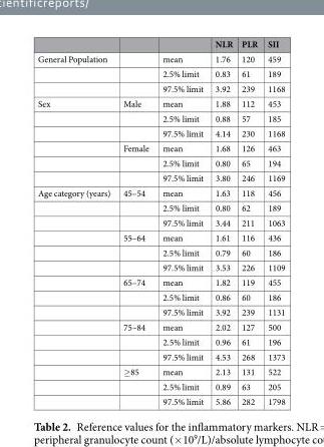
<table><thead><tr><td></td><td></td><td></td><td>NLR</td><td>PLR</td><td>SII</td></tr></thead><tbody><tr><td rowspan="3">General Population</td><td></td><td>mean</td><td>1.76</td><td>120</td><td>459</td></tr><tr><td></td><td>2.5% limit</td><td>0.83</td><td>61</td><td>189</td></tr><tr><td></td><td>97.5% limit</td><td>3.92</td><td>239</td><td>1168</td></tr><tr><td rowspan="6">Sex</td><td>Male</td><td>mean</td><td>1.88</td><td>112</td><td>453</td></tr><tr><td></td><td>2.5% limit</td><td>0.88</td><td>57</td><td>185</td></tr><tr><td></td><td>97.5% limit</td><td>4.14</td><td>230</td><td>1168</td></tr><tr><td>Female</td><td>mean</td><td>1.68</td><td>126</td><td>463</td></tr><tr><td></td><td>2.5% limit</td><td>0.80</td><td>65</td><td>194</td></tr><tr><td></td><td>97.5% limit</td><td>3.80</td><td>246</td><td>1169</td></tr><tr><td rowspan="15">Age category (years)</td><td>45–54</td><td>mean</td><td>1.63</td><td>118</td><td>456</td></tr><tr><td></td><td>2.5% limit</td><td>0.80</td><td>62</td><td>189</td></tr><tr><td></td><td>97.5% limit</td><td>3.44</td><td>211</td><td>1063</td></tr><tr><td>55–64</td><td>mean</td><td>1.61</td><td>116</td><td>436</td></tr><tr><td></td><td>2.5% limit</td><td>0.79</td><td>60</td><td>186</td></tr><tr><td></td><td>97.5% limit</td><td>3.53</td><td>226</td><td>1109</td></tr><tr><td>65–74</td><td>mean</td><td>1.82</td><td>119</td><td>455</td></tr><tr><td></td><td>2.5% limit</td><td>0.86</td><td>60</td><td>186</td></tr><tr><td></td><td>97.5% limit</td><td>3.92</td><td>239</td><td>1131</td></tr><tr><td>75–84</td><td>mean</td><td>2.02</td><td>127</td><td>500</td></tr><tr><td></td><td>2.5% limit</td><td>0.96</td><td>61</td><td>196</td></tr><tr><td></td><td>97.5% limit</td><td>4.53</td><td>268</td><td>1373</td></tr><tr><td>≥85</td><td>mean</td><td>2.13</td><td>131</td><td>522</td></tr><tr><td></td><td>2.5% limit</td><td>0.89</td><td>63</td><td>205</td></tr><tr><td></td><td>97.5% limit</td><td>5.86</td><td>282</td><td>1798</td></tr></tbody></table>